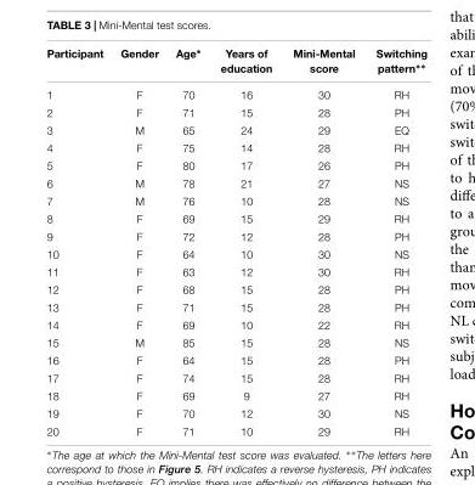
<table><thead><tr><td>Participant</td><td>Gender</td><td>Age∗</td><td>Years of education</td><td>Mini-Mental score</td><td>Switching pattern∗∗</td></tr></thead><tbody><tr><td>1</td><td>F</td><td>70</td><td>16</td><td>30</td><td>RH</td></tr><tr><td>2</td><td>F</td><td>71</td><td>15</td><td>28</td><td>PH</td></tr><tr><td>3</td><td>M</td><td>65</td><td>24</td><td>29</td><td>EQ</td></tr><tr><td>4</td><td>F</td><td>75</td><td>14</td><td>28</td><td>RH</td></tr><tr><td>5</td><td>F</td><td>80</td><td>17</td><td>26</td><td>PH</td></tr><tr><td>6</td><td>M</td><td>78</td><td>21</td><td>27</td><td>NS</td></tr><tr><td>7</td><td>M</td><td>76</td><td>10</td><td>28</td><td>NS</td></tr><tr><td>8</td><td>F</td><td>69</td><td>15</td><td>29</td><td>RH</td></tr><tr><td>9</td><td>F</td><td>72</td><td>12</td><td>28</td><td>PH</td></tr><tr><td>10</td><td>F</td><td>64</td><td>10</td><td>30</td><td>NS</td></tr><tr><td>11</td><td>F</td><td>63</td><td>12</td><td>30</td><td>RH</td></tr><tr><td>12</td><td>F</td><td>68</td><td>15</td><td>28</td><td>PH</td></tr><tr><td>13</td><td>F</td><td>71</td><td>15</td><td>28</td><td>PH</td></tr><tr><td>14</td><td>F</td><td>69</td><td>10</td><td>22</td><td>RH</td></tr><tr><td>15</td><td>M</td><td>85</td><td>15</td><td>28</td><td>NS</td></tr><tr><td>16</td><td>F</td><td>64</td><td>15</td><td>28</td><td>PH</td></tr><tr><td>17</td><td>F</td><td>74</td><td>15</td><td>28</td><td>RH</td></tr><tr><td>18</td><td>F</td><td>69</td><td>9</td><td>27</td><td>RH</td></tr><tr><td>19</td><td>F</td><td>70</td><td>12</td><td>30</td><td>NS</td></tr><tr><td>20</td><td>F</td><td>71</td><td>10</td><td>29</td><td>RH</td></tr></tbody></table>